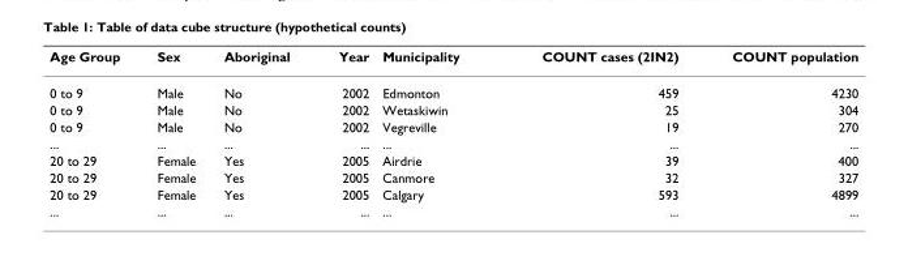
<table><thead><tr><td>Age Group</td><td>Sex</td><td>Aboriginal</td><td>Year</td><td>Municipality</td><td>COUNT cases (2IN2)</td><td>COUNT population</td></tr></thead><tbody><tr><td>0 to 9</td><td>Male</td><td>No</td><td>2002</td><td>Edmonton</td><td>459</td><td>4230</td></tr><tr><td>0 to 9</td><td>Male</td><td>No</td><td>2002</td><td>Wetaskiwin</td><td>25</td><td>304</td></tr><tr><td>0 to 9</td><td>Male</td><td>No</td><td>2002</td><td>Vegreville</td><td>19</td><td>270</td></tr><tr><td>...</td><td>...</td><td>...</td><td>...</td><td>...</td><td>...</td><td>...</td></tr><tr><td>20 to 29</td><td>Female</td><td>Yes</td><td>2005</td><td>Airdrie</td><td>39</td><td>400</td></tr><tr><td>20 to 29</td><td>Female</td><td>Yes</td><td>2005</td><td>Canmore</td><td>32</td><td>327</td></tr><tr><td>20 to 29</td><td>Female</td><td>Yes</td><td>2005</td><td>Calgary</td><td>593</td><td>4899</td></tr><tr><td>...</td><td>...</td><td>...</td><td>...</td><td>...</td><td>...</td><td>...</td></tr></tbody></table>